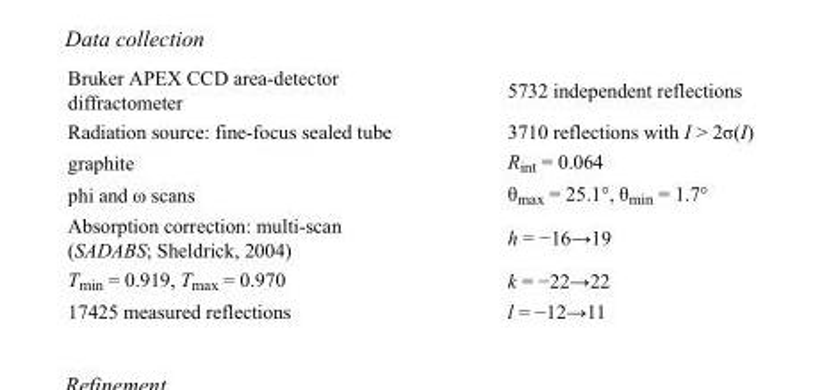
<table><tbody><tr><td>Bruker APEX CCD area-detector diffractometer</td><td>5732 independent reflections</td></tr><tr><td>Radiation source: fine-focus sealed tube</td><td>3710 reflections with I &gt; 2σ(I)</td></tr><tr><td>graphite</td><td>R<sub>int</sub> = 0.064</td></tr><tr><td>phi and ω scans</td><td>θ<sub>max</sub> = 25.1°, θ<sub>min</sub> = 1.7°</td></tr><tr><td>Absorption correction: multi-scan (SADABS; Sheldrick, 2004)</td><td>h = −16→19</td></tr><tr><td>T<sub>min</sub> = 0.919, T<sub>max</sub> = 0.970</td><td>k = −22→22</td></tr><tr><td>17425 measured reflections</td><td>l = −12→11</td></tr></tbody></table>